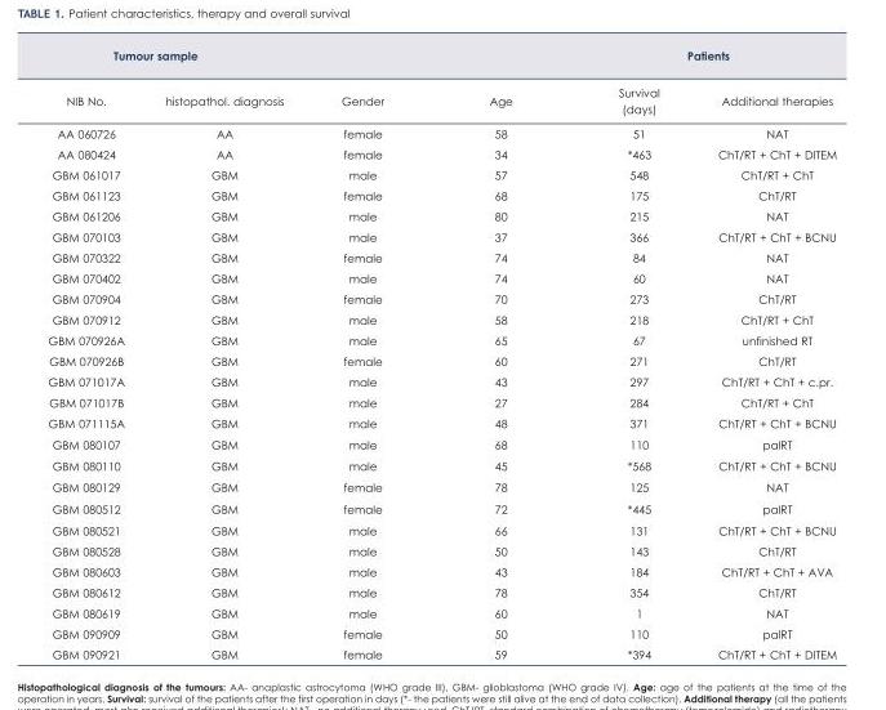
<table><thead><tr><td colspan="2">Tumour sample</td><td rowspan="2">Gender</td><td rowspan="2">Age</td><td colspan="2">Patients</td></tr><tr><td>NIB No.</td><td>histopathol. diagnosis</td><td>Survival (days)</td><td>Additional therapies</td></tr></thead><tbody><tr><td>AA 060726</td><td>AA</td><td>female</td><td>58</td><td>51</td><td>NAT</td></tr><tr><td>AA 080424</td><td>AA</td><td>female</td><td>34</td><td>*463</td><td>ChT/RT + ChT + DITEM</td></tr><tr><td>GBM 061017</td><td>GBM</td><td>male</td><td>57</td><td>548</td><td>ChT/RT + ChT</td></tr><tr><td>GBM 061123</td><td>GBM</td><td>female</td><td>68</td><td>175</td><td>ChT/RT</td></tr><tr><td>GBM 061206</td><td>GBM</td><td>male</td><td>80</td><td>215</td><td>NAT</td></tr><tr><td>GBM 070103</td><td>GBM</td><td>male</td><td>37</td><td>366</td><td>ChT/RT + ChT + BCNU</td></tr><tr><td>GBM 070322</td><td>GBM</td><td>female</td><td>74</td><td>84</td><td>NAT</td></tr><tr><td>GBM 070402</td><td>GBM</td><td>male</td><td>74</td><td>60</td><td>NAT</td></tr><tr><td>GBM 070904</td><td>GBM</td><td>female</td><td>70</td><td>273</td><td>ChT/RT</td></tr><tr><td>GBM 070912</td><td>GBM</td><td>male</td><td>58</td><td>218</td><td>ChT/RT + ChT</td></tr><tr><td>GBM 070926A</td><td>GBM</td><td>male</td><td>65</td><td>67</td><td>unfinished RT</td></tr><tr><td>GBM 070926B</td><td>GBM</td><td>female</td><td>60</td><td>271</td><td>ChT/RT</td></tr><tr><td>GBM 071017A</td><td>GBM</td><td>male</td><td>43</td><td>297</td><td>ChT/RT + ChT + c.pr.</td></tr><tr><td>GBM 071017B</td><td>GBM</td><td>male</td><td>27</td><td>284</td><td>ChT/RT + ChT</td></tr><tr><td>GBM 071115A</td><td>GBM</td><td>male</td><td>48</td><td>371</td><td>ChT/RT + ChT + BCNU</td></tr><tr><td>GBM 080107</td><td>GBM</td><td>male</td><td>68</td><td>110</td><td>palRT</td></tr><tr><td>GBM 080110</td><td>GBM</td><td>male</td><td>45</td><td>*568</td><td>ChT/RT + ChT + BCNU</td></tr><tr><td>GBM 080129</td><td>GBM</td><td>female</td><td>78</td><td>125</td><td>NAT</td></tr><tr><td>GBM 080512</td><td>GBM</td><td>female</td><td>72</td><td>*445</td><td>palRT</td></tr><tr><td>GBM 080521</td><td>GBM</td><td>male</td><td>66</td><td>131</td><td>ChT/RT + ChT + BCNU</td></tr><tr><td>GBM 080528</td><td>GBM</td><td>male</td><td>50</td><td>143</td><td>ChT/RT</td></tr><tr><td>GBM 080603</td><td>GBM</td><td>male</td><td>43</td><td>184</td><td>ChT/RT + ChT + AVA</td></tr><tr><td>GBM 080612</td><td>GBM</td><td>male</td><td>78</td><td>354</td><td>ChT/RT</td></tr><tr><td>GBM 080619</td><td>GBM</td><td>male</td><td>60</td><td>1</td><td>NAT</td></tr><tr><td>GBM 090909</td><td>GBM</td><td>female</td><td>50</td><td>110</td><td>palRT</td></tr><tr><td>GBM 090921</td><td>GBM</td><td>female</td><td>59</td><td>*394</td><td>ChT/RT + ChT + DITEM</td></tr></tbody></table>